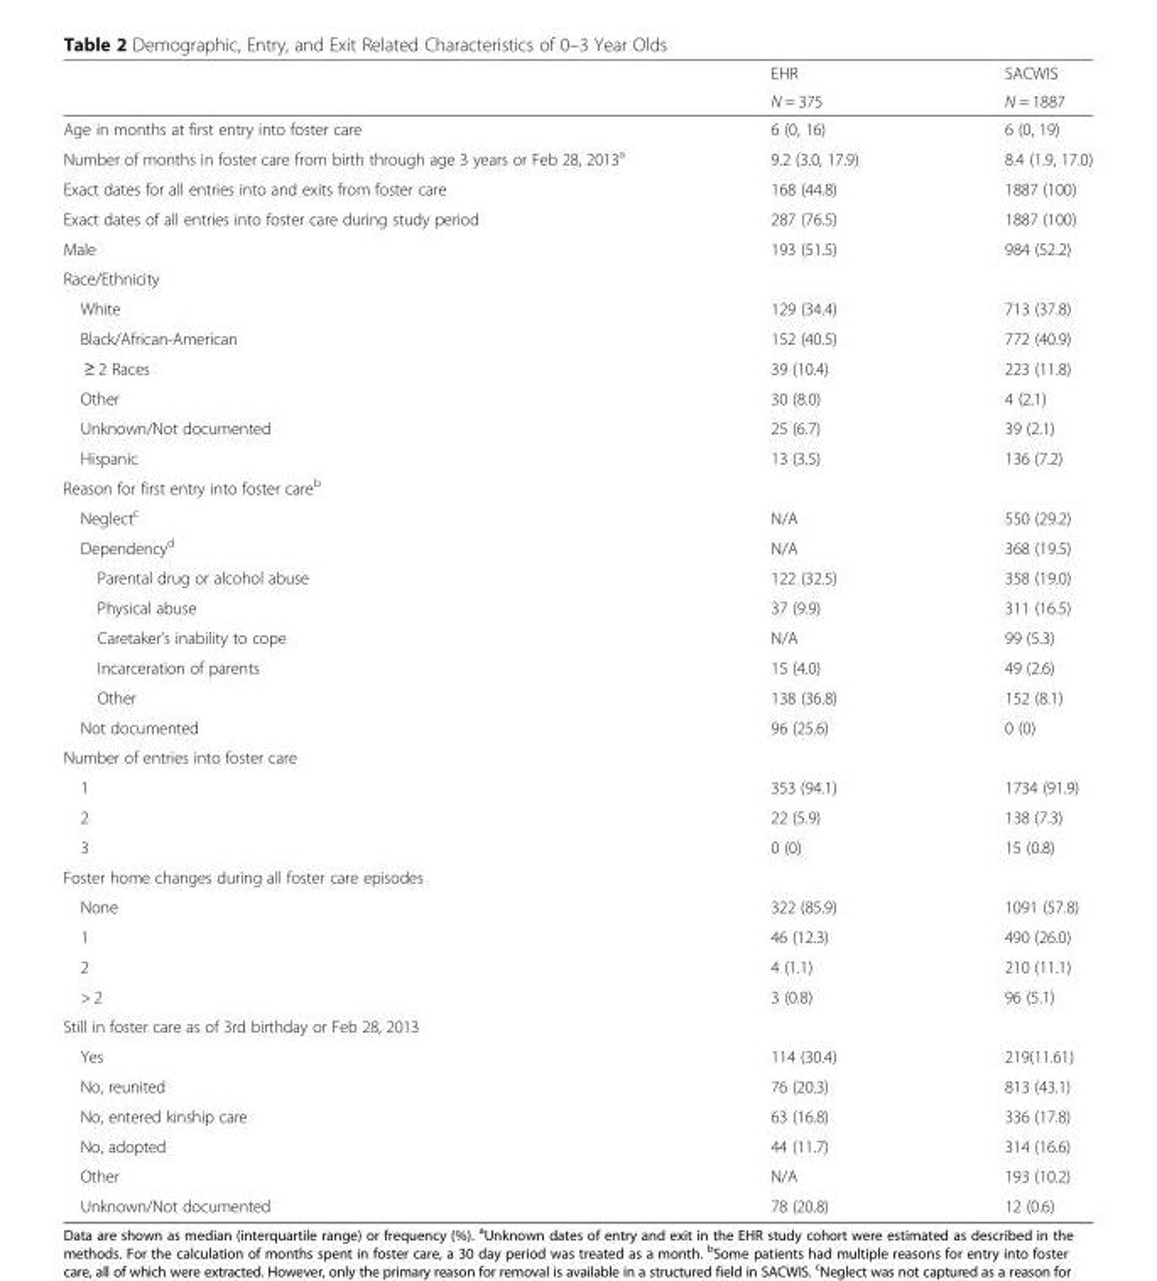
<table><thead><tr><td rowspan="2"></td><td rowspan="2">EHR N = 375</td><td rowspan="2">SACWIS N = 1887</td></tr><tr></tr></thead><tbody><tr><td>Age in months at first entry into foster care</td><td>6 (0, 16)</td><td>6 (0, 19)</td></tr><tr><td>Number of months in foster care from birth through age 3 years or Feb 28, 2013<sup>a</sup></td><td>9.2 (3.0, 17.9)</td><td>8.4 (1.9, 17.0)</td></tr><tr><td>Exact dates for all entries into and exits from foster care</td><td>168 (44.8)</td><td>1887 (100)</td></tr><tr><td>Exact dates of all entries into foster care during study period</td><td>287 (76.5)</td><td>1887 (100)</td></tr><tr><td>Male</td><td>193 (51.5)</td><td>984 (52.2)</td></tr><tr><td colspan="3">Race/Ethnicity</td></tr><tr><td>White</td><td>129 (34.4)</td><td>713 (37.8)</td></tr><tr><td>Black/African-American</td><td>152 (40.5)</td><td>772 (40.9)</td></tr><tr><td>≥ 2 Races</td><td>39 (10.4)</td><td>223 (11.8)</td></tr><tr><td>Other</td><td>30 (8.0)</td><td>4 (2.1)</td></tr><tr><td>Unknown/Not documented</td><td>25 (6.7)</td><td>39 (2.1)</td></tr><tr><td>Hispanic</td><td>13 (3.5)</td><td>136 (7.2)</td></tr><tr><td colspan="3">Reason for first entry into foster care<sup>b</sup></td></tr><tr><td>Neglect<sup>c</sup></td><td>N/A</td><td>550 (29.2)</td></tr><tr><td>Dependency<sup>d</sup></td><td>N/A</td><td>368 (19.5)</td></tr><tr><td>Parental drug or alcohol abuse</td><td>122 (32.5)</td><td>358 (19.0)</td></tr><tr><td>Physical abuse</td><td>37 (9.9)</td><td>311 (16.5)</td></tr><tr><td>Caretaker’s inability to cope</td><td>N/A</td><td>99 (5.3)</td></tr><tr><td>Incarceration of parents</td><td>15 (4.0)</td><td>49 (2.6)</td></tr><tr><td>Other</td><td>138 (36.8)</td><td>152 (8.1)</td></tr><tr><td>Not documented</td><td>96 (25.6)</td><td>0 (0)</td></tr><tr><td colspan="3">Number of entries into foster care</td></tr><tr><td>1</td><td>353 (94.1)</td><td>1734 (91.9)</td></tr><tr><td>2</td><td>22 (5.9)</td><td>138 (7.3)</td></tr><tr><td>3</td><td>0 (0)</td><td>15 (0.8)</td></tr><tr><td colspan="3">Foster home changes during all foster care episodes</td></tr><tr><td>None</td><td>322 (85.9)</td><td>1091 (57.8)</td></tr><tr><td>1</td><td>46 (12.3)</td><td>490 (26.0)</td></tr><tr><td>2</td><td>4 (1.1)</td><td>210 (11.1)</td></tr><tr><td>&gt; 2</td><td>3 (0.8)</td><td>96 (5.1)</td></tr><tr><td colspan="3">Still in foster care as of 3rd birthday or Feb 28, 2013</td></tr><tr><td>Yes</td><td>114 (30.4)</td><td>219(11.61)</td></tr><tr><td>No, reunited</td><td>76 (20.3)</td><td>813 (43.1)</td></tr><tr><td>No, entered kinship care</td><td>63 (16.8)</td><td>336 (17.8)</td></tr><tr><td>No, adopted</td><td>44 (11.7)</td><td>314 (16.6)</td></tr><tr><td>Other</td><td>N/A</td><td>193 (10.2)</td></tr><tr><td>Unknown/Not documented</td><td>78 (20.8)</td><td>12 (0.6)</td></tr></tbody></table>